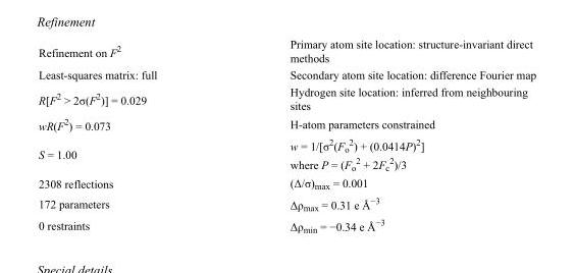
<table><tbody><tr><td>Refinement on F<sup>2</sup></td><td>Primary atom site location: structure-invariant direct methods</td></tr><tr><td>Least-squares matrix: full</td><td>Secondary atom site location: difference Fourier map</td></tr><tr><td>R[F<sup>2</sup> &gt; 2σ(F<sup>2</sup>)] = 0.029</td><td>Hydrogen site location: inferred from neighbouring sites</td></tr><tr><td>wR(F<sup>2</sup>) = 0.073</td><td>H-atom parameters constrained</td></tr><tr><td>S = 1.00</td><td>w = 1/[σ<sup>2</sup>(F<sub>o</sub> <sup>2</sup>) + (0.0414P)<sup>2</sup>] where P = (F<sub>o</sub> <sup>2</sup> + 2F<sub>c</sub> <sup>2</sup>)/3</td></tr><tr><td>2308 reflections</td><td>(Δ/σ)<sub>max</sub> = 0.001</td></tr><tr><td>172 parameters</td><td>Δρ<sub>max</sub> = 0.31 e Å<sup>−3</sup></td></tr><tr><td>0 restraints</td><td>Δρ<sub>min</sub> = −0.34 e Å<sup>−3</sup></td></tr></tbody></table>